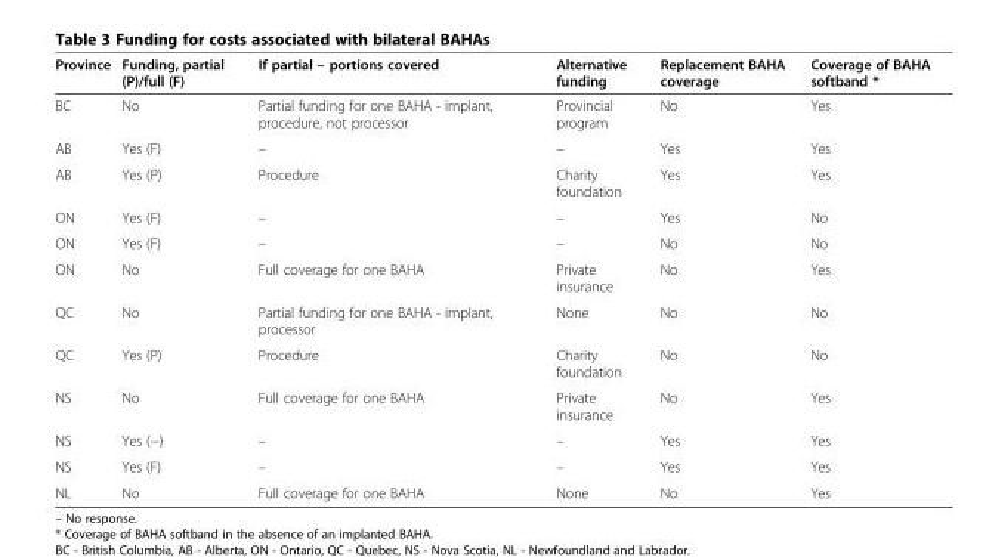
<table><thead><tr><td>Province</td><td>Funding, partial (P)/full (F)</td><td>If partial – portions covered</td><td>Alternative funding</td><td>Replacement BAHA coverage</td><td>Coverage of BAHA softband *</td></tr></thead><tbody><tr><td>BC</td><td>No</td><td>Partial funding for one BAHA - implant, procedure, not processor</td><td>Provincial program</td><td>No</td><td>Yes</td></tr><tr><td>AB</td><td>Yes (F)</td><td>–</td><td>–</td><td>Yes</td><td>Yes</td></tr><tr><td>AB</td><td>Yes (P)</td><td>Procedure</td><td>Charity foundation</td><td>Yes</td><td>Yes</td></tr><tr><td>ON</td><td>Yes (F)</td><td>–</td><td>–</td><td>Yes</td><td>No</td></tr><tr><td>ON</td><td>Yes (F)</td><td>–</td><td>–</td><td>No</td><td>No</td></tr><tr><td>ON</td><td>No</td><td>Full coverage for one BAHA</td><td>Private insurance</td><td>No</td><td>Yes</td></tr><tr><td>QC</td><td>No</td><td>Partial funding for one BAHA - implant, processor</td><td>None</td><td>No</td><td>No</td></tr><tr><td>QC</td><td>Yes (P)</td><td>Procedure</td><td>Charity foundation</td><td>No</td><td>No</td></tr><tr><td>NS</td><td>No</td><td>Full coverage for one BAHA</td><td>Private insurance</td><td>No</td><td>Yes</td></tr><tr><td>NS</td><td>Yes (−)</td><td>–</td><td>–</td><td>Yes</td><td>Yes</td></tr><tr><td>NS</td><td>Yes (F)</td><td>–</td><td>–</td><td>Yes</td><td>Yes</td></tr><tr><td>NL</td><td>No</td><td>Full coverage for one BAHA</td><td>None</td><td>No</td><td>Yes</td></tr></tbody></table>